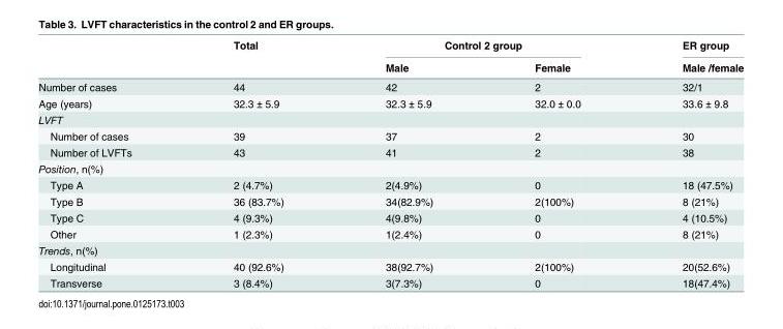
<table><thead><tr><td rowspan="2"></td><td rowspan="2">Total</td><td colspan="2">Control 2 group</td><td rowspan="2">ER group Male /female</td></tr><tr><td>Male</td><td>Female</td></tr></thead><tbody><tr><td>Number of cases</td><td>44</td><td>42</td><td>2</td><td>32/1</td></tr><tr><td>Age (years)</td><td>32.3 ± 5.9</td><td>32.3 ± 5.9</td><td>32.0 ± 0.0</td><td>33.6 ± 9.8</td></tr><tr><td colspan="5">LVFT</td></tr><tr><td>Number of cases</td><td>39</td><td>37</td><td>2</td><td>30</td></tr><tr><td>Number of LVFTs</td><td>43</td><td>41</td><td>2</td><td>38</td></tr><tr><td colspan="5">Position, n(%)</td></tr><tr><td>Type A</td><td>2 (4.7%)</td><td>2(4.9%)</td><td>0</td><td>18 (47.5%)</td></tr><tr><td>Type B</td><td>36 (83.7%)</td><td>34(82.9%)</td><td>2(100%)</td><td>8 (21%)</td></tr><tr><td>Type C</td><td>4 (9.3%)</td><td>4(9.8%)</td><td>0</td><td>4 (10.5%)</td></tr><tr><td>Other</td><td>1 (2.3%)</td><td>1(2.4%)</td><td>0</td><td>8 (21%)</td></tr><tr><td colspan="5">Trends, n(%)</td></tr><tr><td>Longitudinal</td><td>40 (92.6%)</td><td>38(92.7%)</td><td>2(100%)</td><td>20(52.6%)</td></tr><tr><td>Transverse</td><td>3 (8.4%)</td><td>3(7.3%)</td><td>0</td><td>18(47.4%)</td></tr></tbody></table>